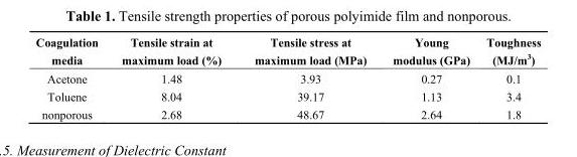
<table><thead><tr><td>Coagulation media</td><td>Tensile strain at maximum load (%)</td><td>Tensile stress at maximum load (MPa)</td><td>Young modulus (GPa)</td><td>Toughness (MJ/m<sup>3</sup>)</td></tr></thead><tbody><tr><td>Acetone</td><td>1.48</td><td>3.93</td><td>0.27</td><td>0.1</td></tr><tr><td>Toluene</td><td>8.04</td><td>39.17</td><td>1.13</td><td>3.4</td></tr><tr><td>nonporous</td><td>2.68</td><td>48.67</td><td>2.64</td><td>1.8</td></tr></tbody></table>